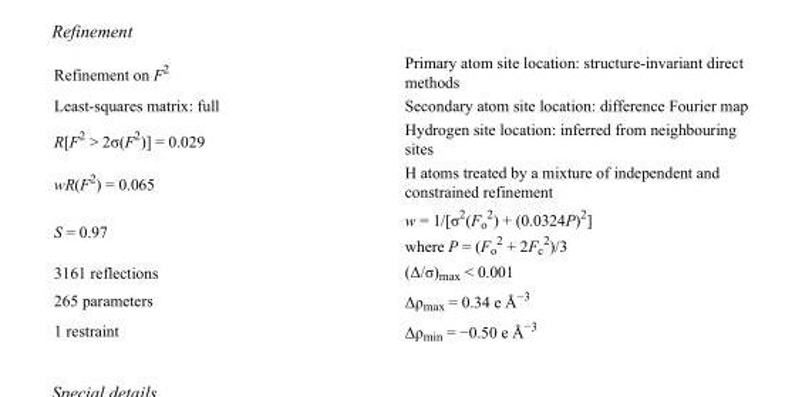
<table><tbody><tr><td>Refinement on F<sup>2</sup></td><td>Primary atom site location: structure-invariant direct methods</td></tr><tr><td>Least-squares matrix: full</td><td>Secondary atom site location: difference Fourier map</td></tr><tr><td>R[F<sup>2</sup> &gt; 2σ(F<sup>2</sup>)] = 0.029</td><td>Hydrogen site location: inferred from neighbouring sites</td></tr><tr><td>wR(F<sup>2</sup>) = 0.065</td><td>H atoms treated by a mixture of independent and constrained refinement</td></tr><tr><td>S = 0.97</td><td>w = 1/[σ<sup>2</sup>(F<sub>o</sub> <sup>2</sup>) + (0.0324P)<sup>2</sup>] where P = (F<sub>o</sub> <sup>2</sup> + 2F<sub>c</sub> <sup>2</sup>)/3</td></tr><tr><td>3161 reflections</td><td>(Δ/σ)<sub>max</sub> &lt; 0.001</td></tr><tr><td>265 parameters</td><td>Δρ<sub>max</sub> = 0.34 e Å<sup>−3</sup></td></tr><tr><td>1 restraint</td><td>Δρ<sub>min</sub> = −0.50 e Å<sup>−3</sup></td></tr></tbody></table>